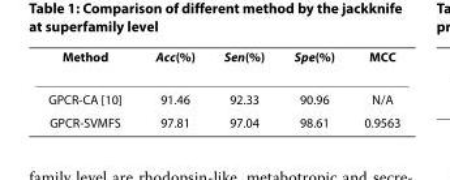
<table><thead><tr><td>Method</td><td>Acc(%)</td><td>Sen(%)</td><td>Spe(%)</td><td>MCC</td></tr></thead><tbody><tr><td>GPCR-CA [10]</td><td>91.46</td><td>92.33</td><td>90.96</td><td>N/A</td></tr><tr><td>GPCR-SVMFS</td><td>97.81</td><td>97.04</td><td>98.61</td><td>0.9563</td></tr></tbody></table>